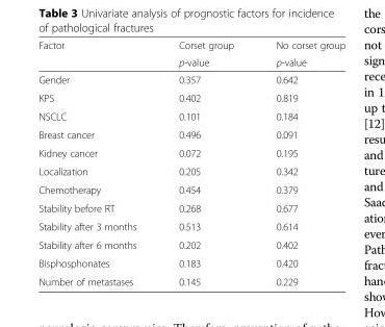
<table><thead><tr><td rowspan="2">Factor</td><td rowspan="2">Corset group p-value</td><td rowspan="2">No corset group p-value</td></tr><tr></tr></thead><tbody><tr><td>Gender</td><td>0.357</td><td>0.642</td></tr><tr><td>KPS</td><td>0.402</td><td>0.819</td></tr><tr><td>NSCLC</td><td>0.101</td><td>0.184</td></tr><tr><td>Breast cancer</td><td>0.496</td><td>0.091</td></tr><tr><td>Kidney cancer</td><td>0.072</td><td>0.195</td></tr><tr><td>Localization</td><td>0.205</td><td>0.342</td></tr><tr><td>Chemotherapy</td><td>0.454</td><td>0.379</td></tr><tr><td>Stability before RT</td><td>0.268</td><td>0.677</td></tr><tr><td>Stability after 3 months</td><td>0.513</td><td>0.614</td></tr><tr><td>Stability after 6 months</td><td>0.202</td><td>0.402</td></tr><tr><td>Bisphosphonates</td><td>0.183</td><td>0.420</td></tr><tr><td>Number of metastases</td><td>0.145</td><td>0.229</td></tr></tbody></table>